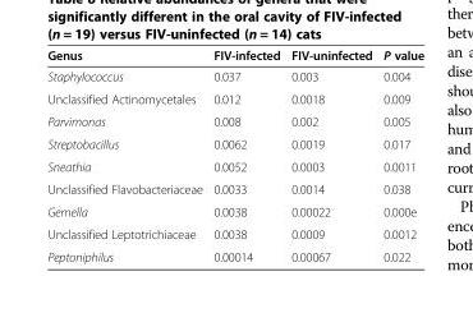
<table><thead><tr><td>Genus</td><td>FIV-infected</td><td>FIV-uninfected</td><td>P value</td></tr></thead><tbody><tr><td>Staphylococcus</td><td>0.037</td><td>0.003</td><td>0.004</td></tr><tr><td>Unclassified Actinomycetales</td><td>0.012</td><td>0.0018</td><td>0.009</td></tr><tr><td>Parvimonas</td><td>0.008</td><td>0.002</td><td>0.005</td></tr><tr><td>Streptobacillus</td><td>0.0062</td><td>0.0019</td><td>0.017</td></tr><tr><td>Sneathia</td><td>0.0052</td><td>0.0003</td><td>0.0011</td></tr><tr><td>Unclassified Flavobacteriaceae</td><td>0.0033</td><td>0.0014</td><td>0.038</td></tr><tr><td>Gemella</td><td>0.0038</td><td>0.00022</td><td>0.000e</td></tr><tr><td>Unclassified Leptotrichiaceae</td><td>0.0038</td><td>0.0009</td><td>0.0012</td></tr><tr><td>Peptoniphilus</td><td>0.00014</td><td>0.00067</td><td>0.022</td></tr></tbody></table>